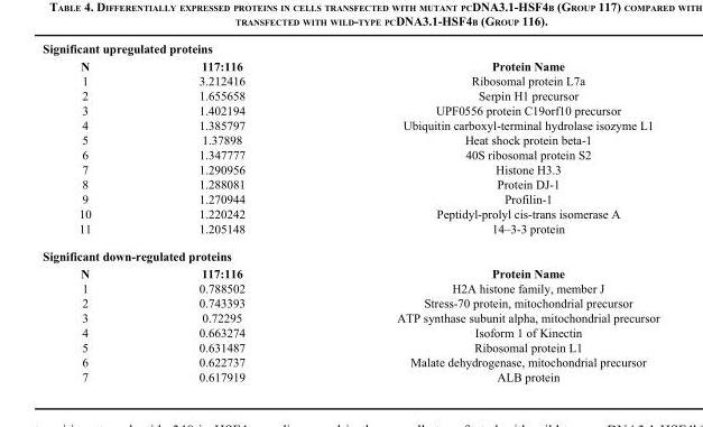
<table><thead><tr><td colspan="3">Significant upregulated proteins</td></tr><tr><td>N</td><td>117:116</td><td>Protein Name</td></tr></thead><tbody><tr><td>1</td><td>3.212416</td><td>Ribosomal protein L7a</td></tr><tr><td>2</td><td>1.655658</td><td>Serpin H1 precursor</td></tr><tr><td>3</td><td>1.402194</td><td>UPF0556 protein C19orf10 precursor</td></tr><tr><td>4</td><td>1.385797</td><td>Ubiquitin carboxyl-terminal hydrolase isozyme L1</td></tr><tr><td>5</td><td>1.37898</td><td>Heat shock protein beta-1</td></tr><tr><td>6</td><td>1.347777</td><td>40S ribosomal protein S2</td></tr><tr><td>7</td><td>1.290956</td><td>Histone H3.3</td></tr><tr><td>8</td><td>1.288081</td><td>Protein DJ-1</td></tr><tr><td>9</td><td>1.270944</td><td>Profilin-1</td></tr><tr><td>10</td><td>1.220242</td><td>Peptidyl-prolyl cis-trans isomerase A</td></tr><tr><td>11</td><td>1.205148</td><td>14–3-3 protein</td></tr><tr><td colspan="3">Significant down-regulated proteins</td></tr><tr><td>N</td><td>117:116</td><td>Protein Name</td></tr><tr><td>1</td><td>0.788502</td><td>H2A histone family, member J</td></tr><tr><td>2</td><td>0.743393</td><td>Stress-70 protein, mitochondrial precursor</td></tr><tr><td>3</td><td>0.72295</td><td>ATP synthase subunit alpha, mitochondrial precursor</td></tr><tr><td>4</td><td>0.663274</td><td>Isoform 1 of Kinectin</td></tr><tr><td>5</td><td>0.631487</td><td>Ribosomal protein L1</td></tr><tr><td>6</td><td>0.622737</td><td>Malate dehydrogenase, mitochondrial precursor</td></tr><tr><td>7</td><td>0.617919</td><td>ALB protein</td></tr></tbody></table>